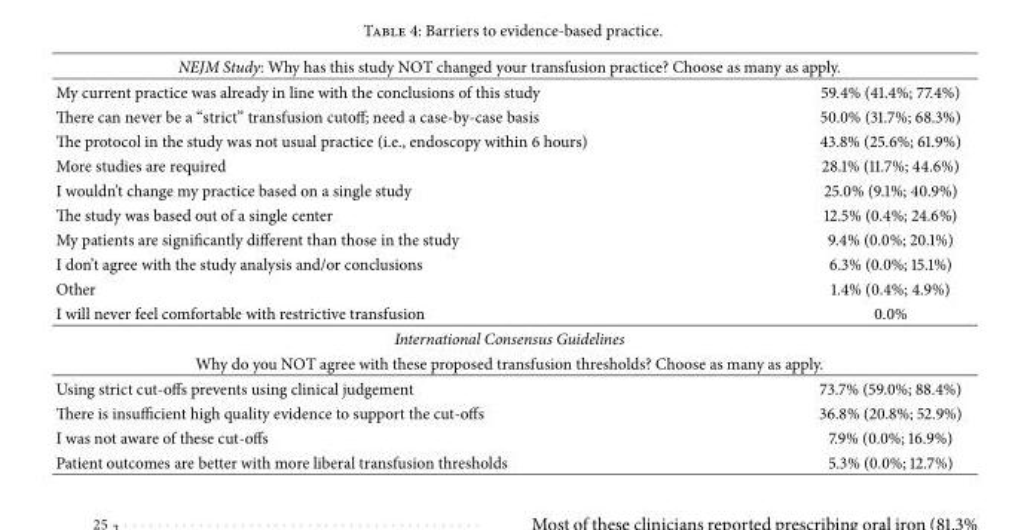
<table><thead><tr><td colspan="2">NEJM Study: Why has this study NOT changed your transfusion practice? Choose as many as apply.</td></tr><tr><td>My current practice was already in line with the conclusions of this study</td><td>59.4% (41.4%; 77.4%)</td></tr></thead><tbody><tr><td>There can never be a “strict” transfusion cutoff; need a case-by-case basis</td><td>50.0% (31.7%; 68.3%)</td></tr><tr><td>The protocol in the study was not usual practice (i.e., endoscopy within 6 hours)</td><td>43.8% (25.6%; 61.9%)</td></tr><tr><td>More studies are required</td><td>28.1% (11.7%; 44.6%)</td></tr><tr><td>I wouldn’t change my practice based on a single study</td><td>25.0% (9.1%; 40.9%)</td></tr><tr><td>The study was based out of a single center</td><td>12.5% (0.4%; 24.6%)</td></tr><tr><td>My patients are significantly different than those in the study</td><td>9.4% (0.0%; 20.1%)</td></tr><tr><td>I don’t agree with the study analysis and/or conclusions</td><td>6.3% (0.0%; 15.1%)</td></tr><tr><td>Other</td><td>1.4% (0.4%; 4.9%)</td></tr><tr><td>I will never feel comfortable with restrictive transfusion</td><td>0.0%</td></tr><tr><td colspan="2">International Consensus Guidelines</td></tr><tr><td colspan="2">Why do you NOT agree with these proposed transfusion thresholds? Choose as many as apply.</td></tr><tr><td>Using strict cut-offs prevents using clinical judgement</td><td>73.7% (59.0%; 88.4%)</td></tr><tr><td>There is insufficient high quality evidence to support the cut-offs</td><td>36.8% (20.8%; 52.9%)</td></tr><tr><td>I was not aware of these cut-offs</td><td>7.9% (0.0%; 16.9%)</td></tr><tr><td>Patient outcomes are better with more liberal transfusion thresholds</td><td>5.3% (0.0%; 12.7%)</td></tr></tbody></table>